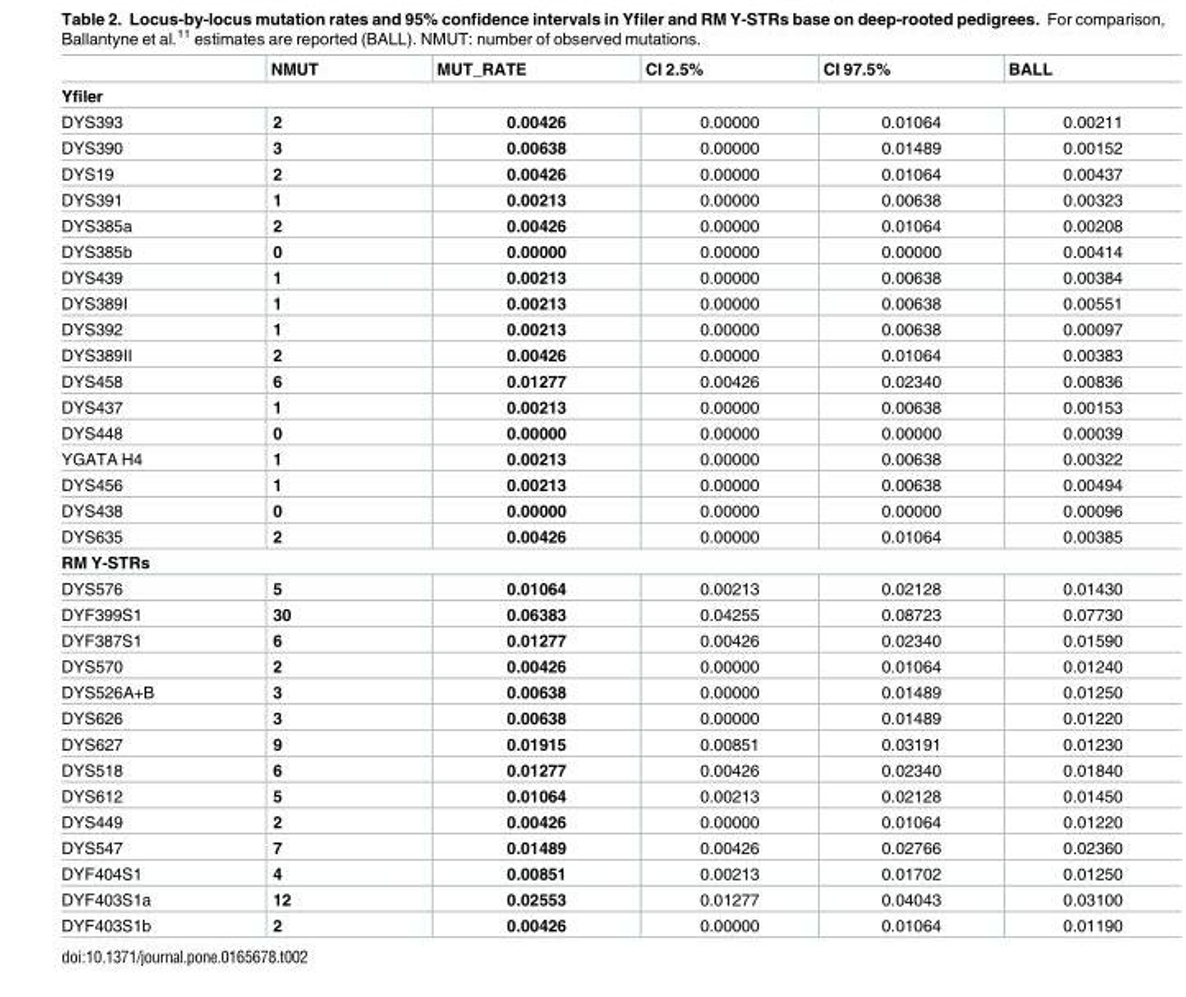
<table><thead><tr><td></td><td>NMUT</td><td>MUT_RATE</td><td>CI 2.5%</td><td>CI 97.5%</td><td>BALL</td></tr></thead><tbody><tr><td colspan="6">Yfiler</td></tr><tr><td>DYS393</td><td>2</td><td>0.00426</td><td>0.00000</td><td>0.01064</td><td>0.00211</td></tr><tr><td>DYS390</td><td>3</td><td>0.00638</td><td>0.00000</td><td>0.01489</td><td>0.00152</td></tr><tr><td>DYS19</td><td>2</td><td>0.00426</td><td>0.00000</td><td>0.01064</td><td>0.00437</td></tr><tr><td>DYS391</td><td>1</td><td>0.00213</td><td>0.00000</td><td>0.00638</td><td>0.00323</td></tr><tr><td>DYS385a</td><td>2</td><td>0.00426</td><td>0.00000</td><td>0.01064</td><td>0.00208</td></tr><tr><td>DYS385b</td><td>0</td><td>0.00000</td><td>0.00000</td><td>0.00000</td><td>0.00414</td></tr><tr><td>DYS439</td><td>1</td><td>0.00213</td><td>0.00000</td><td>0.00638</td><td>0.00384</td></tr><tr><td>DYS389I</td><td>1</td><td>0.00213</td><td>0.00000</td><td>0.00638</td><td>0.00551</td></tr><tr><td>DYS392</td><td>1</td><td>0.00213</td><td>0.00000</td><td>0.00638</td><td>0.00097</td></tr><tr><td>DYS389II</td><td>2</td><td>0.00426</td><td>0.00000</td><td>0.01064</td><td>0.00383</td></tr><tr><td>DYS458</td><td>6</td><td>0.01277</td><td>0.00426</td><td>0.02340</td><td>0.00836</td></tr><tr><td>DYS437</td><td>1</td><td>0.00213</td><td>0.00000</td><td>0.00638</td><td>0.00153</td></tr><tr><td>DYS448</td><td>0</td><td>0.00000</td><td>0.00000</td><td>0.00000</td><td>0.00039</td></tr><tr><td>YGATA H4</td><td>1</td><td>0.00213</td><td>0.00000</td><td>0.00638</td><td>0.00322</td></tr><tr><td>DYS456</td><td>1</td><td>0.00213</td><td>0.00000</td><td>0.00638</td><td>0.00494</td></tr><tr><td>DYS438</td><td>0</td><td>0.00000</td><td>0.00000</td><td>0.00000</td><td>0.00096</td></tr><tr><td>DYS635</td><td>2</td><td>0.00426</td><td>0.00000</td><td>0.01064</td><td>0.00385</td></tr><tr><td colspan="6">RM Y-STRs</td></tr><tr><td>DYS576</td><td>5</td><td>0.01064</td><td>0.00213</td><td>0.02128</td><td>0.01430</td></tr><tr><td>DYF399S1</td><td>30</td><td>0.06383</td><td>0.04255</td><td>0.08723</td><td>0.07730</td></tr><tr><td>DYF387S1</td><td>6</td><td>0.01277</td><td>0.00426</td><td>0.02340</td><td>0.01590</td></tr><tr><td>DYS570</td><td>2</td><td>0.00426</td><td>0.00000</td><td>0.01064</td><td>0.01240</td></tr><tr><td>DYS526A+B</td><td>3</td><td>0.00638</td><td>0.00000</td><td>0.01489</td><td>0.01250</td></tr><tr><td>DYS626</td><td>3</td><td>0.00638</td><td>0.00000</td><td>0.01489</td><td>0.01220</td></tr><tr><td>DYS627</td><td>9</td><td>0.01915</td><td>0.00851</td><td>0.03191</td><td>0.01230</td></tr><tr><td>DYS518</td><td>6</td><td>0.01277</td><td>0.00426</td><td>0.02340</td><td>0.01840</td></tr><tr><td>DYS612</td><td>5</td><td>0.01064</td><td>0.00213</td><td>0.02128</td><td>0.01450</td></tr><tr><td>DYS449</td><td>2</td><td>0.00426</td><td>0.00000</td><td>0.01064</td><td>0.01220</td></tr><tr><td>DYS547</td><td>7</td><td>0.01489</td><td>0.00426</td><td>0.02766</td><td>0.02360</td></tr><tr><td>DYF404S1</td><td>4</td><td>0.00851</td><td>0.00213</td><td>0.01702</td><td>0.01250</td></tr><tr><td>DYF403S1a</td><td>12</td><td>0.02553</td><td>0.01277</td><td>0.04043</td><td>0.03100</td></tr><tr><td>DYF403S1b</td><td>2</td><td>0.00426</td><td>0.00000</td><td>0.01064</td><td>0.01190</td></tr></tbody></table>